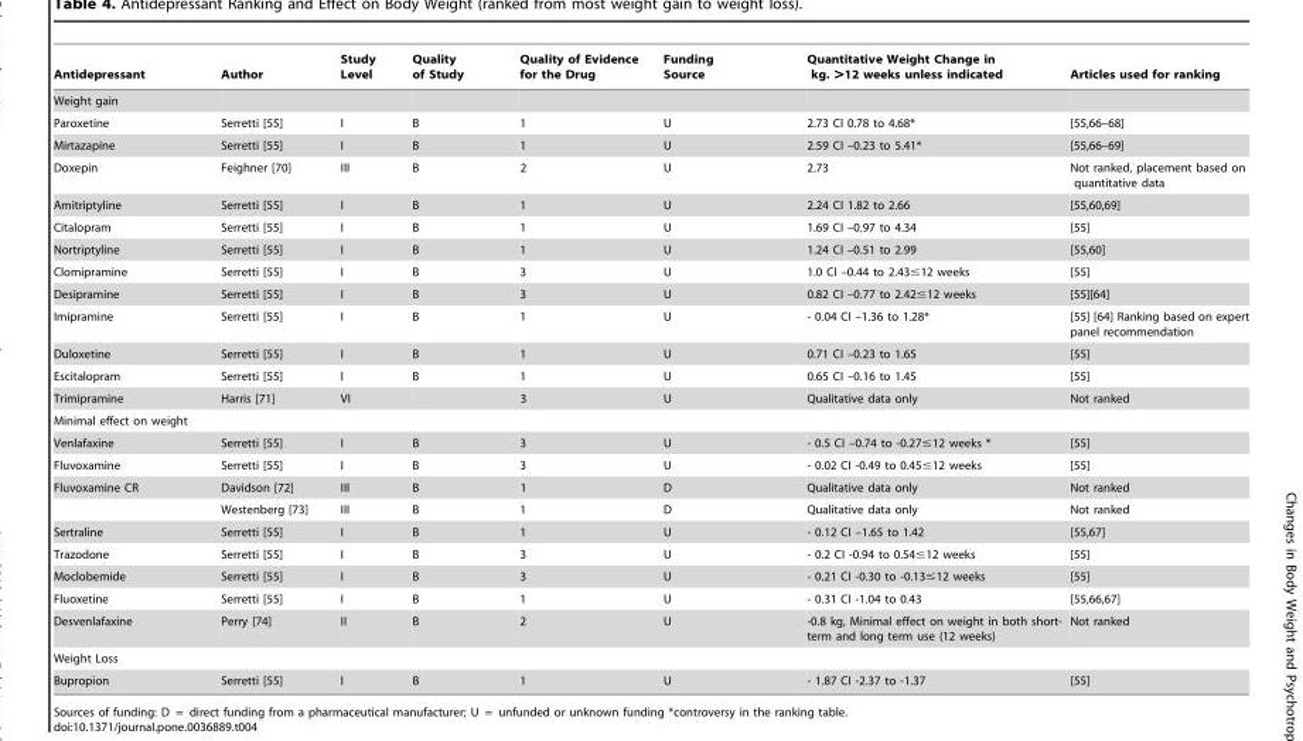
<table><thead><tr><td>Antidepressant</td><td>Author</td><td>Study Level</td><td>Quality of Study</td><td>Quality of Evidence for the Drug</td><td>Funding Source</td><td>Quantitative Weight Change in kg. &gt;12 weeks unless indicated</td><td>Articles used for ranking</td></tr></thead><tbody><tr><td colspan="8">Weight gain</td></tr><tr><td>Paroxetine</td><td>Serretti [55]</td><td>I</td><td>B</td><td>1</td><td>U</td><td>2.73 CI 0.78 to 4.68*</td><td>[55,66–68]</td></tr><tr><td>Mirtazapine</td><td>Serretti [55]</td><td>I</td><td>B</td><td>1</td><td>U</td><td>2.59 CI –0.23 to 5.41*</td><td>[55,66–69]</td></tr><tr><td>Doxepin</td><td>Feighner [70]</td><td>III</td><td>B</td><td>2</td><td>U</td><td>2.73</td><td>Not ranked, placement based on quantitative data</td></tr><tr><td>Amitriptyline</td><td>Serretti [55]</td><td>I</td><td>B</td><td>1</td><td>U</td><td>2.24 CI 1.82 to 2.66</td><td>[55,60,69]</td></tr><tr><td>Citalopram</td><td>Serretti [55]</td><td>I</td><td>B</td><td>1</td><td>U</td><td>1.69 CI –0.97 to 4.34</td><td>[55]</td></tr><tr><td>Nortriptyline</td><td>Serretti [55]</td><td>I</td><td>B</td><td>1</td><td>U</td><td>1.24 CI –0.51 to 2.99</td><td>[55,60]</td></tr><tr><td>Clomipramine</td><td>Serretti [55]</td><td>I</td><td>B</td><td>3</td><td>U</td><td>1.0 CI –0.44 to 2.43≤12 weeks</td><td>[55]</td></tr><tr><td>Desipramine</td><td>Serretti [55]</td><td>I</td><td>B</td><td>3</td><td>U</td><td>0.82 CI –0.77 to 2.42≤12 weeks</td><td>[55][64]</td></tr><tr><td>Imipramine</td><td>Serretti [55]</td><td>I</td><td>B</td><td>1</td><td>U</td><td>- 0.04 CI –1.36 to 1.28*</td><td>[55] [64] Ranking based on expert panel recommendation</td></tr><tr><td>Duloxetine</td><td>Serretti [55]</td><td>I</td><td>B</td><td>1</td><td>U</td><td>0.71 CI –0.23 to 1.65</td><td>[55]</td></tr><tr><td>Escitalopram</td><td>Serretti [55]</td><td>I</td><td>B</td><td>1</td><td>U</td><td>0.65 CI –0.16 to 1.45</td><td>[55]</td></tr><tr><td>Trimipramine</td><td>Harris [71]</td><td>VI</td><td></td><td>3</td><td>U</td><td>Qualitative data only</td><td>Not ranked</td></tr><tr><td colspan="8">Minimal effect on weight</td></tr><tr><td>Venlafaxine</td><td>Serretti [55]</td><td>I</td><td>B</td><td>3</td><td>U</td><td>- 0.5 CI –0.74 to -0.27≤12 weeks *</td><td>[55]</td></tr><tr><td>Fluvoxamine</td><td>Serretti [55]</td><td>I</td><td>B</td><td>3</td><td>U</td><td>- 0.02 CI -0.49 to 0.45≤12 weeks</td><td>[55]</td></tr><tr><td rowspan="2">Fluvoxamine CR</td><td>Davidson [72]</td><td>III</td><td>B</td><td>1</td><td>D</td><td>Qualitative data only</td><td>Not ranked</td></tr><tr><td>Westenberg [73]</td><td>III</td><td>B</td><td>1</td><td>D</td><td>Qualitative data only</td><td>Not ranked</td></tr><tr><td>Sertraline</td><td>Serretti [55]</td><td>I</td><td>B</td><td>1</td><td>U</td><td>- 0.12 CI –1.65 to 1.42</td><td>[55,67]</td></tr><tr><td>Trazodone</td><td>Serretti [55]</td><td>I</td><td>B</td><td>3</td><td>U</td><td>- 0.2 CI -0.94 to 0.54≤12 weeks</td><td>[55]</td></tr><tr><td>Moclobemide</td><td>Serretti [55]</td><td>I</td><td>B</td><td>3</td><td>U</td><td>- 0.21 CI -0.30 to -0.13≤12 weeks</td><td>[55]</td></tr><tr><td>Fluoxetine</td><td>Serretti [55]</td><td>I</td><td>B</td><td>1</td><td>U</td><td>- 0.31 CI -1.04 to 0.43</td><td>[55,66,67]</td></tr><tr><td>Desvenlafaxine</td><td>Perry [74]</td><td>II</td><td>B</td><td>2</td><td>U</td><td>-0.8 kg, Minimal effect on weight in both short- term and long term use (12 weeks)</td><td>Not ranked</td></tr><tr><td colspan="8">Weight Loss</td></tr><tr><td>Bupropion</td><td>Serretti [55]</td><td>I</td><td>B</td><td>1</td><td>U</td><td>- 1.87 CI -2.37 to -1.37</td><td>[55]</td></tr></tbody></table>